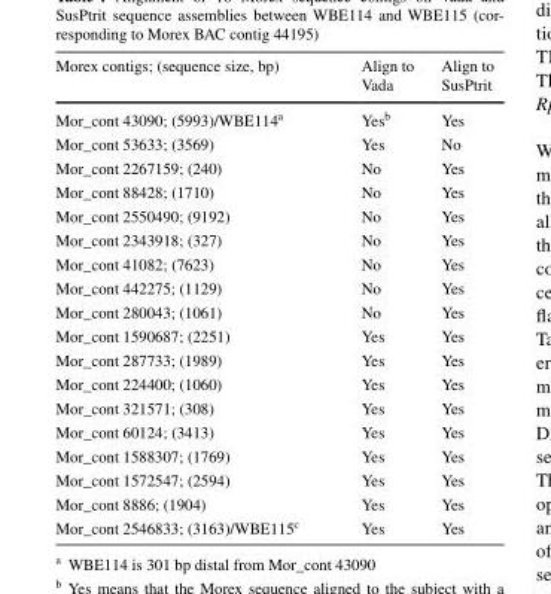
<table><thead><tr><td>Morex contigs; (sequence size, bp)</td><td>Align to Vada</td><td>Align to SusPtrit</td></tr></thead><tbody><tr><td>Mor_cont 43090; (5993)/WBE114<sup>a</sup></td><td>Yes<sup>b</sup></td><td>Yes</td></tr><tr><td>Mor_cont 53633; (3569)</td><td>Yes</td><td>No</td></tr><tr><td>Mor_cont 2267159; (240)</td><td>No</td><td>Yes</td></tr><tr><td>Mor_cont 88428; (1710)</td><td>No</td><td>Yes</td></tr><tr><td>Mor_cont 2550490; (9192)</td><td>No</td><td>Yes</td></tr><tr><td>Mor_cont 2343918; (327)</td><td>No</td><td>Yes</td></tr><tr><td>Mor_cont 41082; (7623)</td><td>No</td><td>Yes</td></tr><tr><td>Mor_cont 442275; (1129)</td><td>No</td><td>Yes</td></tr><tr><td>Mor_cont 280043; (1061)</td><td>No</td><td>Yes</td></tr><tr><td>Mor_cont 1590687; (2251)</td><td>Yes</td><td>Yes</td></tr><tr><td>Mor_cont 287733; (1989)</td><td>Yes</td><td>Yes</td></tr><tr><td>Mor_cont 224400; (1060)</td><td>Yes</td><td>Yes</td></tr><tr><td>Mor_cont 321571; (308)</td><td>Yes</td><td>Yes</td></tr><tr><td>Mor_cont 60124; (3413)</td><td>Yes</td><td>Yes</td></tr><tr><td>Mor_cont 1588307; (1769)</td><td>Yes</td><td>Yes</td></tr><tr><td>Mor_cont 1572547; (2594)</td><td>Yes</td><td>Yes</td></tr><tr><td>Mor_cont 8886; (1904)</td><td>Yes</td><td>Yes</td></tr><tr><td>Mor_cont 2546833; (3163)/WBE115<sup>c</sup></td><td>Yes</td><td>Yes</td></tr></tbody></table>